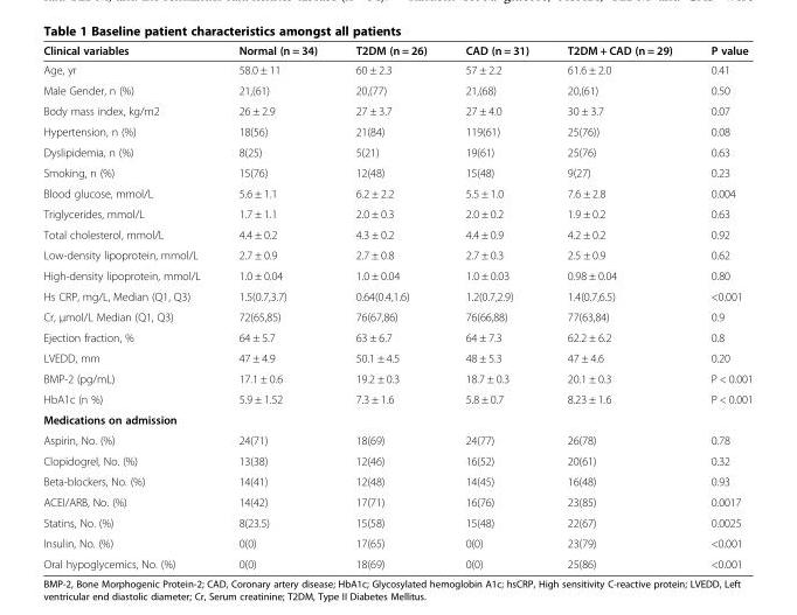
<table><thead><tr><td>Clinical variables</td><td>Normal (n = 34)</td><td>T2DM (n = 26)</td><td>CAD (n = 31)</td><td>T2DM + CAD (n = 29)</td><td>P value</td></tr></thead><tbody><tr><td>Age, yr</td><td>58.0 ± 11</td><td>60 ± 2.3</td><td>57 ± 2.2</td><td>61.6 ± 2.0</td><td>0.41</td></tr><tr><td>Male Gender, n (%)</td><td>21,(61)</td><td>20,(77)</td><td>21,(68)</td><td>20,(61)</td><td>0.50</td></tr><tr><td>Body mass index, kg/m2</td><td>26 ± 2.9</td><td>27 ± 3.7</td><td>27 ± 4.0</td><td>30 ± 3.7</td><td>0.07</td></tr><tr><td>Hypertension, n (%)</td><td>18(56)</td><td>21(84)</td><td>119(61)</td><td>25(76))</td><td>0.08</td></tr><tr><td>Dyslipidemia, n (%)</td><td>8(25)</td><td>5(21)</td><td>19(61)</td><td>25(76)</td><td>0.63</td></tr><tr><td>Smoking, n (%)</td><td>15(76)</td><td>12(48)</td><td>15(48)</td><td>9(27)</td><td>0.23</td></tr><tr><td>Blood glucose, mmol/L</td><td>5.6 ± 1.1</td><td>6.2 ± 2.2</td><td>5.5 ± 1.0</td><td>7.6 ± 2.8</td><td>0.004</td></tr><tr><td>Triglycerides, mmol/L</td><td>1.7 ± 1.1</td><td>2.0 ± 0.3</td><td>2.0 ± 0.2</td><td>1.9 ± 0.2</td><td>0.63</td></tr><tr><td>Total cholesterol, mmol/L</td><td>4.4 ± 0.2</td><td>4.3 ± 0.2</td><td>4.4 ± 0.9</td><td>4.2 ± 0.2</td><td>0.92</td></tr><tr><td>Low-density lipoprotein, mmol/L</td><td>2.7 ± 0.9</td><td>2.7 ± 0.8</td><td>2.7 ± 0.3</td><td>2.5 ± 0.9</td><td>0.62</td></tr><tr><td>High-density lipoprotein, mmol/L</td><td>1.0 ± 0.04</td><td>1.0 ± 0.04</td><td>1.0 ± 0.03</td><td>0.98 ± 0.04</td><td>0.80</td></tr><tr><td>Hs CRP, mg/L, Median (Q1, Q3)</td><td>1.5(0.7,3.7)</td><td>0.64(0.4,1.6)</td><td>1.2(0.7,2.9)</td><td>1.4(0.7,6.5)</td><td>&lt;0.001</td></tr><tr><td>Cr, μmol/L Median (Q1, Q3)</td><td>72(65,85)</td><td>76(67,86)</td><td>76(66,88)</td><td>77(63,84)</td><td>0.9</td></tr><tr><td>Ejection fraction, %</td><td>64 ± 5.7</td><td>63 ± 6.7</td><td>64 ± 7.3</td><td>62.2 ± 6.2</td><td>0.8</td></tr><tr><td>LVEDD, mm</td><td>47 ± 4.9</td><td>50.1 ± 4.5</td><td>48 ± 5.3</td><td>47 ± 4.6</td><td>0.20</td></tr><tr><td>BMP-2 (pg/mL)</td><td>17.1 ± 0.6</td><td>19.2 ± 0.3</td><td>18.7 ± 0.3</td><td>20.1 ± 0.3</td><td>P &lt; 0.001</td></tr><tr><td>HbA1c (n %)</td><td>5.9 ± 1.52</td><td>7.3 ± 1.6</td><td>5.8 ± 0.7</td><td>8.23 ± 1.6</td><td>P &lt; 0.001</td></tr><tr><td colspan="6">Medications on admission</td></tr><tr><td>Aspirin, No. (%)</td><td>24(71)</td><td>18(69)</td><td>24(77)</td><td>26(78)</td><td>0.78</td></tr><tr><td>Clopidogrel, No. (%)</td><td>13(38)</td><td>12(46)</td><td>16(52)</td><td>20(61)</td><td>0.32</td></tr><tr><td>Beta-blockers, No. (%)</td><td>14(41)</td><td>12(48)</td><td>14(45)</td><td>16(48)</td><td>0.93</td></tr><tr><td>ACEI/ARB, No. (%)</td><td>14(42)</td><td>17(71)</td><td>16(76)</td><td>23(85)</td><td>0.0017</td></tr><tr><td>Statins, No. (%)</td><td>8(23.5)</td><td>15(58)</td><td>15(48)</td><td>22(67)</td><td>0.0025</td></tr><tr><td>Insulin, No. (%)</td><td>0(0)</td><td>17(65)</td><td>0(0)</td><td>23(79)</td><td>&lt;0.001</td></tr><tr><td>Oral hypoglycemics, No. (%)</td><td>0(0)</td><td>18(69)</td><td>0(0)</td><td>25(86)</td><td>&lt;0.001</td></tr></tbody></table>